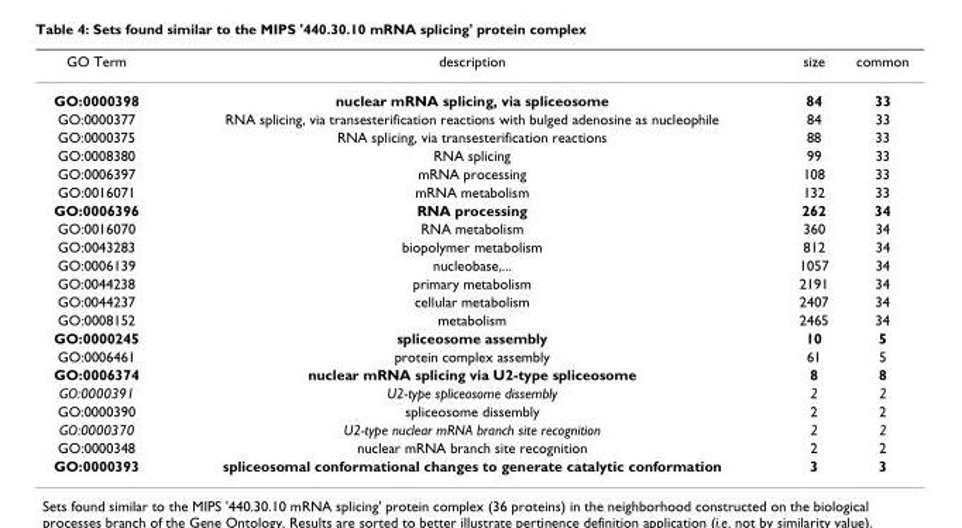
<table><thead><tr><td>GO Term</td><td>description</td><td>size</td><td>common</td></tr></thead><tbody><tr><td>GO:0000398</td><td>nuclear mRNA splicing, via spliceosome</td><td>84</td><td>33</td></tr><tr><td>GO:0000377</td><td>RNA splicing, via transesterification reactions with bulged adenosine as nucleophile</td><td>84</td><td>33</td></tr><tr><td>GO:0000375</td><td>RNA splicing, via transesterification reactions</td><td>88</td><td>33</td></tr><tr><td>GO:0008380</td><td>RNA splicing</td><td>99</td><td>33</td></tr><tr><td>GO:0006397</td><td>mRNA processing</td><td>108</td><td>33</td></tr><tr><td>GO:0016071</td><td>mRNA metabolism</td><td>132</td><td>33</td></tr><tr><td>GO:0006396</td><td>RNA processing</td><td>262</td><td>34</td></tr><tr><td>GO:0016070</td><td>RNA metabolism</td><td>360</td><td>34</td></tr><tr><td>GO:0043283</td><td>biopolymer metabolism</td><td>812</td><td>34</td></tr><tr><td>GO:0006139</td><td>nucleobase,...</td><td>1057</td><td>34</td></tr><tr><td>GO:0044238</td><td>primary metabolism</td><td>2191</td><td>34</td></tr><tr><td>GO:0044237</td><td>cellular metabolism</td><td>2407</td><td>34</td></tr><tr><td>GO:0008152</td><td>metabolism</td><td>2465</td><td>34</td></tr><tr><td>GO:0000245</td><td>spliceosome assembly</td><td>10</td><td>5</td></tr><tr><td>GO:0006461</td><td>protein complex assembly</td><td>61</td><td>5</td></tr><tr><td>GO:0006374</td><td>nuclear mRNA splicing via U2-type spliceosome</td><td>8</td><td>8</td></tr><tr><td>GO:0000391</td><td>U2-type spliceosome dissembly</td><td>2</td><td>2</td></tr><tr><td>GO:0000390</td><td>spliceosome dissembly</td><td>2</td><td>2</td></tr><tr><td>GO:0000370</td><td>U2-type nuclear mRNA branch site recognition</td><td>2</td><td>2</td></tr><tr><td>GO:0000348</td><td>nuclear mRNA branch site recognition</td><td>2</td><td>2</td></tr><tr><td>GO:0000393</td><td>spliceosomal conformational changes to generate catalytic conformation</td><td>3</td><td>3</td></tr></tbody></table>